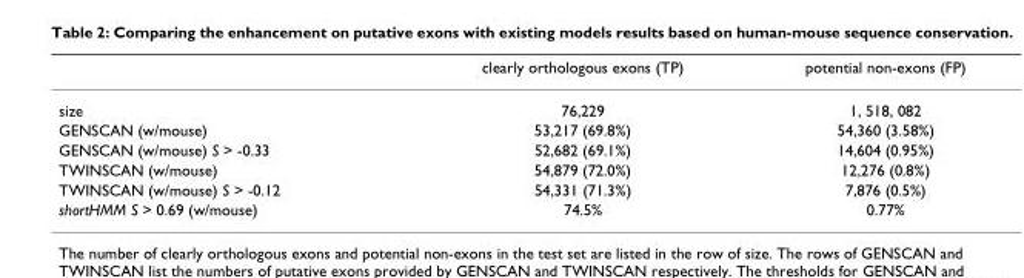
<table><thead><tr><td></td><td>clearly orthologous exons (TP)</td><td>potential non-exons (FP)</td></tr></thead><tbody><tr><td>size</td><td>76,229</td><td>1, 518, 082</td></tr><tr><td>GENSCAN (w/mouse)</td><td>53,217 (69.8%)</td><td>54,360 (3.58%)</td></tr><tr><td>GENSCAN (w/mouse) S &gt; -0.33</td><td>52,682 (69.1%)</td><td>14,604 (0.95%)</td></tr><tr><td>TWINSCAN (w/mouse)</td><td>54,879 (72.0%)</td><td>12,276 (0.8%)</td></tr><tr><td>TWINSCAN (w/mouse) S &gt; -0.12</td><td>54,331 (71.3%)</td><td>7,876 (0.5%)</td></tr><tr><td>shortHMM S &gt; 0.69 (w/mouse)</td><td>74.5%</td><td>0.77%</td></tr></tbody></table>